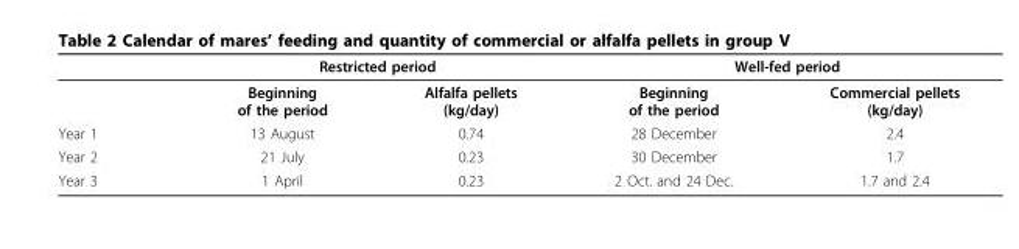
<table><thead><tr><td rowspan="2"></td><td colspan="2">Restricted period</td><td colspan="2">Well-fed period</td></tr><tr><td>Beginning of the period</td><td>Alfalfa pellets (kg/day)</td><td>Beginning of the period</td><td>Commercial pellets (kg/day)</td></tr></thead><tbody><tr><td>Year 1</td><td>13 August</td><td>0.74</td><td>28 December</td><td>2.4</td></tr><tr><td>Year 2</td><td>21 July</td><td>0.23</td><td>30 December</td><td>1.7</td></tr><tr><td>Year 3</td><td>1 April</td><td>0.23</td><td>2 Oct. and 24 Dec.</td><td>1.7 and 2.4</td></tr></tbody></table>